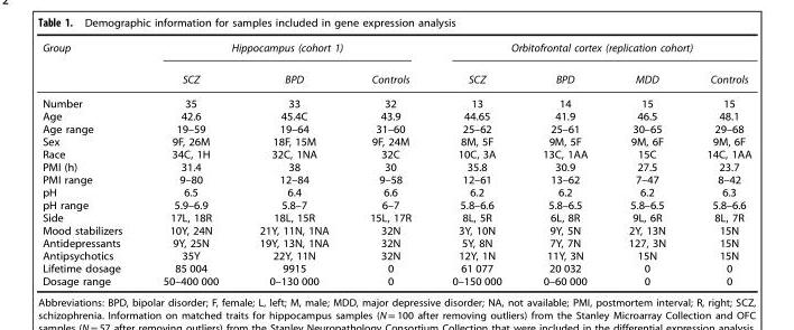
<table><thead><tr><td rowspan="2">Group</td><td colspan="3">Hippocampus (cohort 1)</td><td colspan="4">Orbitofrontal cortex (replication cohort)</td></tr><tr><td>SCZ</td><td>BPD</td><td>Controls</td><td>SCZ</td><td>BPD</td><td>MDD</td><td>Controls</td></tr></thead><tbody><tr><td>Number</td><td>35</td><td>33</td><td>32</td><td>13</td><td>14</td><td>15</td><td>15</td></tr><tr><td>Age</td><td>42.6</td><td>45.4C</td><td>43.9</td><td>44.65</td><td>41.9</td><td>46.5</td><td>48.1</td></tr><tr><td>Age range</td><td>19–59</td><td>19–64</td><td>31–60</td><td>25–62</td><td>25–61</td><td>30–65</td><td>29–68</td></tr><tr><td>Sex</td><td>9F, 26M</td><td>18F, 15M</td><td>9F, 24M</td><td>8M, 5F</td><td>9M, 5F</td><td>9M, 6F</td><td>9M, 6F</td></tr><tr><td>Race</td><td>34C, 1H</td><td>32C, 1NA</td><td>32C</td><td>10C, 3A</td><td>13C, 1AA</td><td>15C</td><td>14C, 1AA</td></tr><tr><td>PMI (h)</td><td>31.4</td><td>38</td><td>30</td><td>35.8</td><td>30.9</td><td>27.5</td><td>23.7</td></tr><tr><td>PMI range</td><td>9–80</td><td>12–84</td><td>9–58</td><td>12–61</td><td>13–62</td><td>7–47</td><td>8–42</td></tr><tr><td>pH</td><td>6.5</td><td>6.4</td><td>6.6</td><td>6.2</td><td>6.2</td><td>6.2</td><td>6.3</td></tr><tr><td>pH range</td><td>5.9–6.9</td><td>5.8–7</td><td>6–7</td><td>5.8–6.6</td><td>5.8–6.5</td><td>5.8–6.5</td><td>5.8–6.6</td></tr><tr><td>Side</td><td>17L, 18R</td><td>18L, 15R</td><td>15L, 17R</td><td>8L, 5R</td><td>6L, 8R</td><td>9L, 6R</td><td>8L, 7R</td></tr><tr><td>Mood stabilizers</td><td>10Y, 24N</td><td>21Y, 11N, 1NA</td><td>32N</td><td>3Y, 10N</td><td>9Y, 5N</td><td>2Y, 13N</td><td>15N</td></tr><tr><td>Antidepressants</td><td>9Y, 25N</td><td>19Y, 13N, 1NA</td><td>32N</td><td>5Y, 8N</td><td>7Y, 7N</td><td>127, 3N</td><td>15N</td></tr><tr><td>Antipsychotics</td><td>35Y</td><td>22Y, 11N</td><td>32N</td><td>12Y, 1N</td><td>11Y, 3N</td><td>15N</td><td>15N</td></tr><tr><td>Lifetime dosage</td><td>85 004</td><td>9915</td><td>0</td><td>61 077</td><td>20 032</td><td>0</td><td>0</td></tr><tr><td>Dosage range</td><td>50–400 000</td><td>0–130 000</td><td>0</td><td>0–150 000</td><td>0–60 000</td><td>0</td><td>0</td></tr></tbody></table>